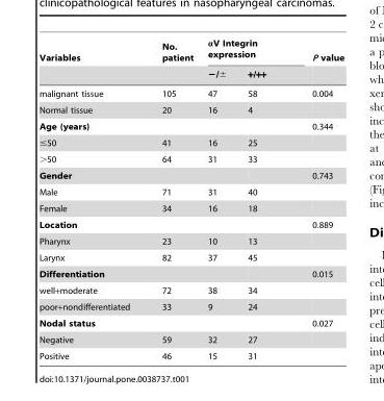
<table><thead><tr><td rowspan="2">Variables</td><td rowspan="2">No. patient</td><td colspan="2">αV Integrin expression</td><td rowspan="2">P value</td></tr><tr><td>−/±</td><td>+/++</td></tr></thead><tbody><tr><td>malignant tissue</td><td>105</td><td>47</td><td>58</td><td>0.004</td></tr><tr><td>Normal tissue</td><td>20</td><td>16</td><td>4</td><td></td></tr><tr><td>Age (years)</td><td></td><td></td><td></td><td>0.344</td></tr><tr><td>≤50</td><td>41</td><td>16</td><td>25</td><td></td></tr><tr><td>&gt;50</td><td>64</td><td>31</td><td>33</td><td></td></tr><tr><td>Gender</td><td></td><td></td><td></td><td>0.743</td></tr><tr><td>Male</td><td>71</td><td>31</td><td>40</td><td></td></tr><tr><td>Female</td><td>34</td><td>16</td><td>18</td><td></td></tr><tr><td>Location</td><td></td><td></td><td></td><td>0.889</td></tr><tr><td>Pharynx</td><td>23</td><td>10</td><td>13</td><td></td></tr><tr><td>Larynx</td><td>82</td><td>37</td><td>45</td><td></td></tr><tr><td>Differentiation</td><td></td><td></td><td></td><td>0.015</td></tr><tr><td>well+moderate</td><td>72</td><td>38</td><td>34</td><td></td></tr><tr><td>poor+nondifferentiated</td><td>33</td><td>9</td><td>24</td><td></td></tr><tr><td>Nodal status</td><td></td><td></td><td></td><td>0.027</td></tr><tr><td>Negative</td><td>59</td><td>32</td><td>27</td><td></td></tr><tr><td>Positive</td><td>46</td><td>15</td><td>31</td><td></td></tr></tbody></table>